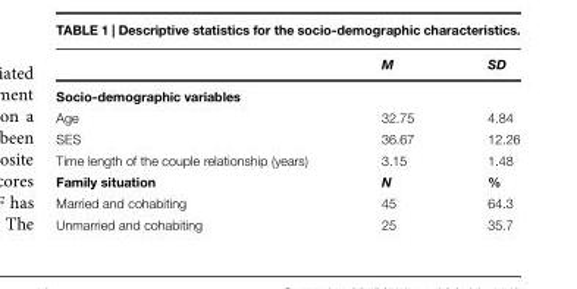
<table><thead><tr><td></td><td>M</td><td>SD</td></tr></thead><tbody><tr><td colspan="3">Socio-demographic variables</td></tr><tr><td>Age</td><td>32.75</td><td>4.84</td></tr><tr><td>SES</td><td>36.67</td><td>12.26</td></tr><tr><td>Time length of the couple relationship (years)</td><td>3.15</td><td>1.48</td></tr><tr><td>Family situation</td><td>N</td><td>%</td></tr><tr><td>Married and cohabiting</td><td>45</td><td>64.3</td></tr><tr><td>Unmarried and cohabiting</td><td>25</td><td>35.7</td></tr></tbody></table>